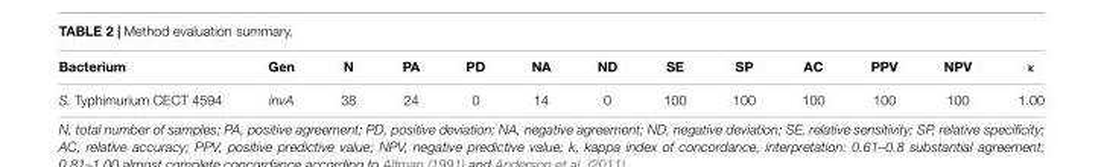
<table><thead><tr><td>Bacterium</td><td>Gen</td><td>N</td><td>PA</td><td>PD</td><td>NA</td><td>ND</td><td>SE</td><td>SP</td><td>AC</td><td>PPV</td><td>NPV</td><td>κ</td></tr></thead><tbody><tr><td>S. Typhimurium CECT 4594</td><td>invA</td><td>38</td><td>24</td><td>0</td><td>14</td><td>0</td><td>100</td><td>100</td><td>100</td><td>100</td><td>100</td><td>1.00</td></tr></tbody></table>